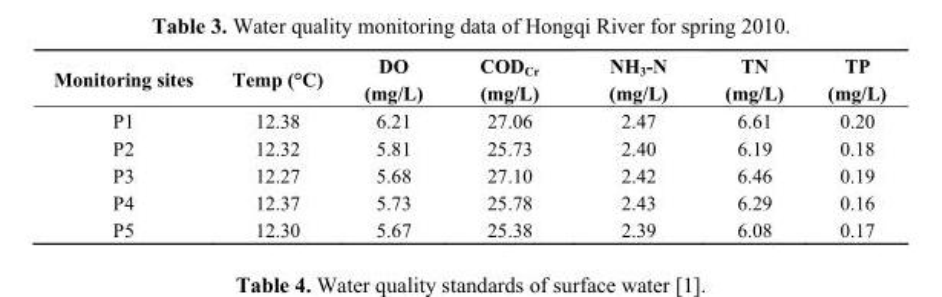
<table><thead><tr><td>Monitoring sites</td><td>Temp (°C)</td><td>DO (mg/L)</td><td>COD<sub>Cr</sub> (mg/L)</td><td>NH<sub>3</sub>-N (mg/L)</td><td>TN (mg/L)</td><td>TP (mg/L)</td></tr></thead><tbody><tr><td>P1</td><td>12.38</td><td>6.21</td><td>27.06</td><td>2.47</td><td>6.61</td><td>0.20</td></tr><tr><td>P2</td><td>12.32</td><td>5.81</td><td>25.73</td><td>2.40</td><td>6.19</td><td>0.18</td></tr><tr><td>P3</td><td>12.27</td><td>5.68</td><td>27.10</td><td>2.42</td><td>6.46</td><td>0.19</td></tr><tr><td>P4</td><td>12.37</td><td>5.73</td><td>25.78</td><td>2.43</td><td>6.29</td><td>0.16</td></tr><tr><td>P5</td><td>12.30</td><td>5.67</td><td>25.38</td><td>2.39</td><td>6.08</td><td>0.17</td></tr></tbody></table>